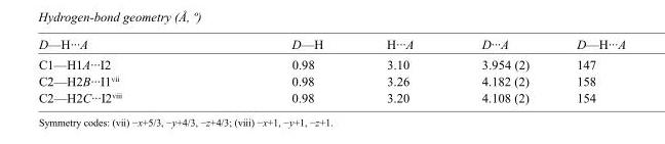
<table><tbody><tr><td>D—H···A</td><td>D—H</td><td>H···A</td><td>D···A</td><td>D—H···A</td></tr><tr><td>C1—H1A···I2</td><td>0.98</td><td>3.10</td><td>3.954 (2)</td><td>147</td></tr><tr><td>C2—H2B···I1<sup>vii</sup></td><td>0.98</td><td>3.26</td><td>4.182 (2)</td><td>158</td></tr><tr><td>C2—H2C···I2<sup>viii</sup></td><td>0.98</td><td>3.20</td><td>4.108 (2)</td><td>154</td></tr></tbody></table>